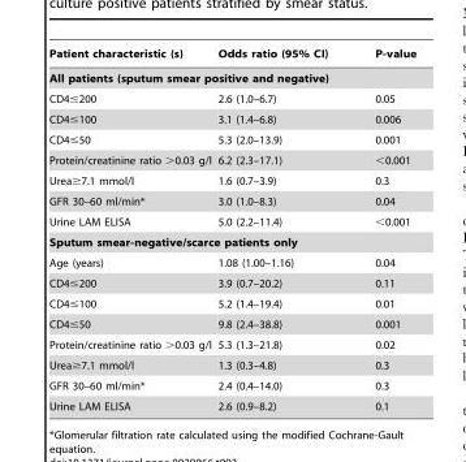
<table><thead><tr><td>Patient characteristic (s)</td><td>Odds ratio (95% CI)</td><td>P-value</td></tr></thead><tbody><tr><td colspan="3">All patients (sputum smear positive and negative)</td></tr><tr><td>CD4≤200</td><td>2.6 (1.0–6.7)</td><td>0.05</td></tr><tr><td>CD4≤100</td><td>3.1 (1.4–6.8)</td><td>0.006</td></tr><tr><td>CD4≤50</td><td>5.3 (2.0–13.9)</td><td>0.001</td></tr><tr><td>Protein/creatinine ratio &gt;0.03 g/l</td><td>6.2 (2.3–17.1)</td><td>&lt;0.001</td></tr><tr><td>Urea≥7.1 mmol/l</td><td>1.6 (0.7–3.9)</td><td>0.3</td></tr><tr><td>GFR 30–60 ml/min*</td><td>3.0 (1.0–8.3)</td><td>0.04</td></tr><tr><td>Urine LAM ELISA</td><td>5.0 (2.2–11.4)</td><td>&lt;0.001</td></tr><tr><td colspan="3">Sputum smear-negative/scarce patients only</td></tr><tr><td>Age (years)</td><td>1.08 (1.00–1.16)</td><td>0.04</td></tr><tr><td>CD4≤200</td><td>3.9 (0.7–20.2)</td><td>0.11</td></tr><tr><td>CD4≤100</td><td>5.2 (1.4–19.4)</td><td>0.01</td></tr><tr><td>CD4≤50</td><td>9.8 (2.4–38.8)</td><td>0.001</td></tr><tr><td>Protein/creatinine ratio &gt;0.03 g/l</td><td>5.3 (1.3–21.8)</td><td>0.02</td></tr><tr><td>Urea≥7.1 mmol/l</td><td>1.3 (0.3–4.8)</td><td>0.3</td></tr><tr><td>GFR 30–60 ml/min*</td><td>2.4 (0.4–14.0)</td><td>0.3</td></tr><tr><td>Urine LAM ELISA</td><td>2.6 (0.9–8.2)</td><td>0.1</td></tr></tbody></table>